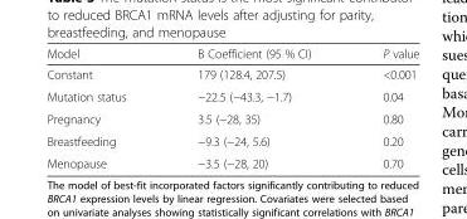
<table><thead><tr><td>Model</td><td>B Coefficient (95 % CI)</td><td>P value</td></tr></thead><tbody><tr><td>Constant</td><td>179 (128.4, 207.5)</td><td>&lt;0.001</td></tr><tr><td>Mutation status</td><td>−22.5 (−43.3, −1.7)</td><td>0.04</td></tr><tr><td>Pregnancy</td><td>3.5 (−28, 35)</td><td>0.80</td></tr><tr><td>Breastfeeding</td><td>−9.3 (−24, 5.6)</td><td>0.20</td></tr><tr><td>Menopause</td><td>−3.5 (−28, 20)</td><td>0.70</td></tr></tbody></table>